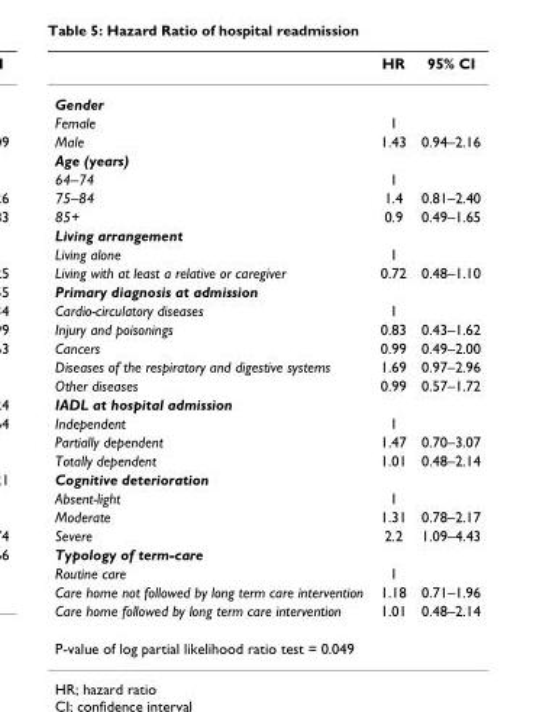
<table><thead><tr><td></td><td>HR</td><td>95% CI</td></tr></thead><tbody><tr><td colspan="3">Gender</td></tr><tr><td>Female</td><td>1</td><td></td></tr><tr><td>Male</td><td>1.43</td><td>0.94–2.16</td></tr><tr><td colspan="3">Age (years)</td></tr><tr><td>64–74</td><td>1</td><td></td></tr><tr><td>75–84</td><td>1.4</td><td>0.81–2.40</td></tr><tr><td>85+</td><td>0.9</td><td>0.49–1.65</td></tr><tr><td colspan="3">Living arrangement</td></tr><tr><td>Living alone</td><td>1</td><td></td></tr><tr><td>Living with at least a relative or caregiver</td><td>0.72</td><td>0.48–1.10</td></tr><tr><td colspan="3">Primary diagnosis at admission</td></tr><tr><td>Cardio-circulatory diseases</td><td>1</td><td></td></tr><tr><td>Injury and poisonings</td><td>0.83</td><td>0.43–1.62</td></tr><tr><td>Cancers</td><td>0.99</td><td>0.49–2.00</td></tr><tr><td>Diseases of the respiratory and digestive systems</td><td>1.69</td><td>0.97–2.96</td></tr><tr><td>Other diseases</td><td>0.99</td><td>0.57–1.72</td></tr><tr><td colspan="3">IADL at hospital admission</td></tr><tr><td>Independent</td><td>1</td><td></td></tr><tr><td>Partially dependent</td><td>1.47</td><td>0.70–3.07</td></tr><tr><td>Totally dependent</td><td>1.01</td><td>0.48–2.14</td></tr><tr><td colspan="3">Cognitive deterioration</td></tr><tr><td>Absent-light</td><td>1</td><td></td></tr><tr><td>Moderate</td><td>1.31</td><td>0.78–2.17</td></tr><tr><td>Severe</td><td>2.2</td><td>1.09–4.43</td></tr><tr><td colspan="3">Typology of term-care</td></tr><tr><td>Routine care</td><td>1</td><td></td></tr><tr><td>Care home not followed by long term care intervention</td><td>1.18</td><td>0.71–1.96</td></tr><tr><td>Care home followed by long term care intervention</td><td>1.01</td><td>0.48–2.14</td></tr><tr><td>P-value of log partial likelihood ratio test = 0.049</td><td></td><td></td></tr></tbody></table>